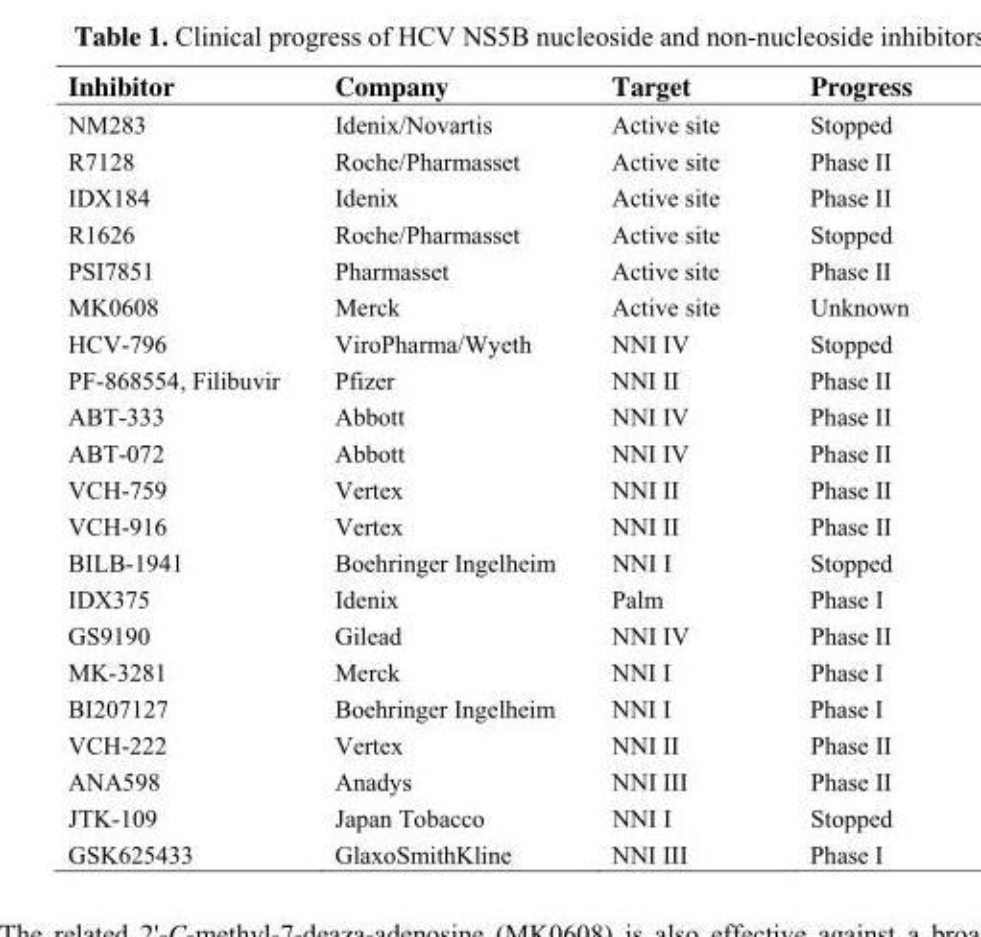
<table><thead><tr><td>Inhibitor</td><td>Company</td><td>Target</td><td>Progress</td></tr></thead><tbody><tr><td>NM283</td><td>Idenix/Novartis</td><td>Active site</td><td>Stopped</td></tr><tr><td>R7128</td><td>Roche/Pharmasset</td><td>Active site</td><td>Phase II</td></tr><tr><td>IDX184</td><td>Idenix</td><td>Active site</td><td>Phase II</td></tr><tr><td>R1626</td><td>Roche/Pharmasset</td><td>Active site</td><td>Stopped</td></tr><tr><td>PSI7851</td><td>Pharmasset</td><td>Active site</td><td>Phase II</td></tr><tr><td>MK0608</td><td>Merck</td><td>Active site</td><td>Unknown</td></tr><tr><td>HCV-796</td><td>ViroPharma/Wyeth</td><td>NNI IV</td><td>Stopped</td></tr><tr><td>PF-868554, Filibuvir</td><td>Pfizer</td><td>NNI II</td><td>Phase II</td></tr><tr><td>ABT-333</td><td>Abbott</td><td>NNI IV</td><td>Phase II</td></tr><tr><td>ABT-072</td><td>Abbott</td><td>NNI IV</td><td>Phase II</td></tr><tr><td>VCH-759</td><td>Vertex</td><td>NNI II</td><td>Phase II</td></tr><tr><td>VCH-916</td><td>Vertex</td><td>NNI II</td><td>Phase II</td></tr><tr><td>BILB-1941</td><td>Boehringer Ingelheim</td><td>NNI I</td><td>Stopped</td></tr><tr><td>IDX375</td><td>Idenix</td><td>Palm</td><td>Phase I</td></tr><tr><td>GS9190</td><td>Gilead</td><td>NNI IV</td><td>Phase II</td></tr><tr><td>MK-3281</td><td>Merck</td><td>NNI I</td><td>Phase I</td></tr><tr><td>BI207127</td><td>Boehringer Ingelheim</td><td>NNI I</td><td>Phase I</td></tr><tr><td>VCH-222</td><td>Vertex</td><td>NNI II</td><td>Phase II</td></tr><tr><td>ANA598</td><td>Anadys</td><td>NNI III</td><td>Phase II</td></tr><tr><td>JTK-109</td><td>Japan Tobacco</td><td>NNI I</td><td>Stopped</td></tr><tr><td>GSK625433</td><td>GlaxoSmithKline</td><td>NNI III</td><td>Phase I</td></tr></tbody></table>